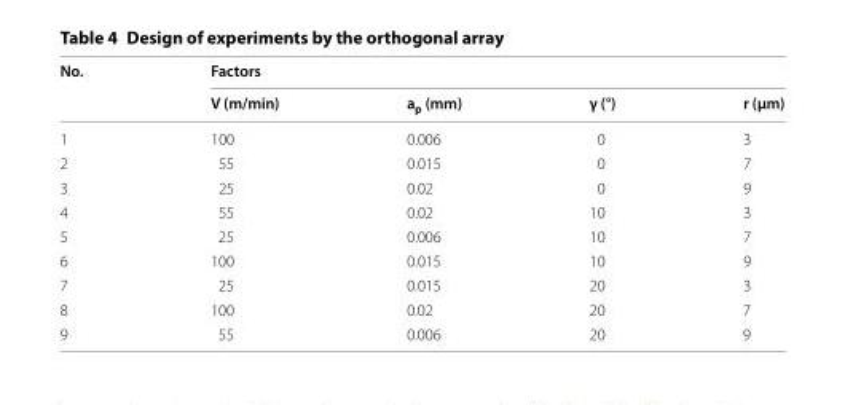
<table><thead><tr><td rowspan="2">No.</td><td colspan="4">Factors</td></tr><tr><td>V (m/min)</td><td>a<sub>p</sub> (mm)</td><td>γ (°)</td><td>r (μm)</td></tr></thead><tbody><tr><td>1</td><td>100</td><td>0.006</td><td>0</td><td>3</td></tr><tr><td>2</td><td>55</td><td>0.015</td><td>0</td><td>7</td></tr><tr><td>3</td><td>25</td><td>0.02</td><td>0</td><td>9</td></tr><tr><td>4</td><td>55</td><td>0.02</td><td>10</td><td>3</td></tr><tr><td>5</td><td>25</td><td>0.006</td><td>10</td><td>7</td></tr><tr><td>6</td><td>100</td><td>0.015</td><td>10</td><td>9</td></tr><tr><td>7</td><td>25</td><td>0.015</td><td>20</td><td>3</td></tr><tr><td>8</td><td>100</td><td>0.02</td><td>20</td><td>7</td></tr><tr><td>9</td><td>55</td><td>0.006</td><td>20</td><td>9</td></tr></tbody></table>